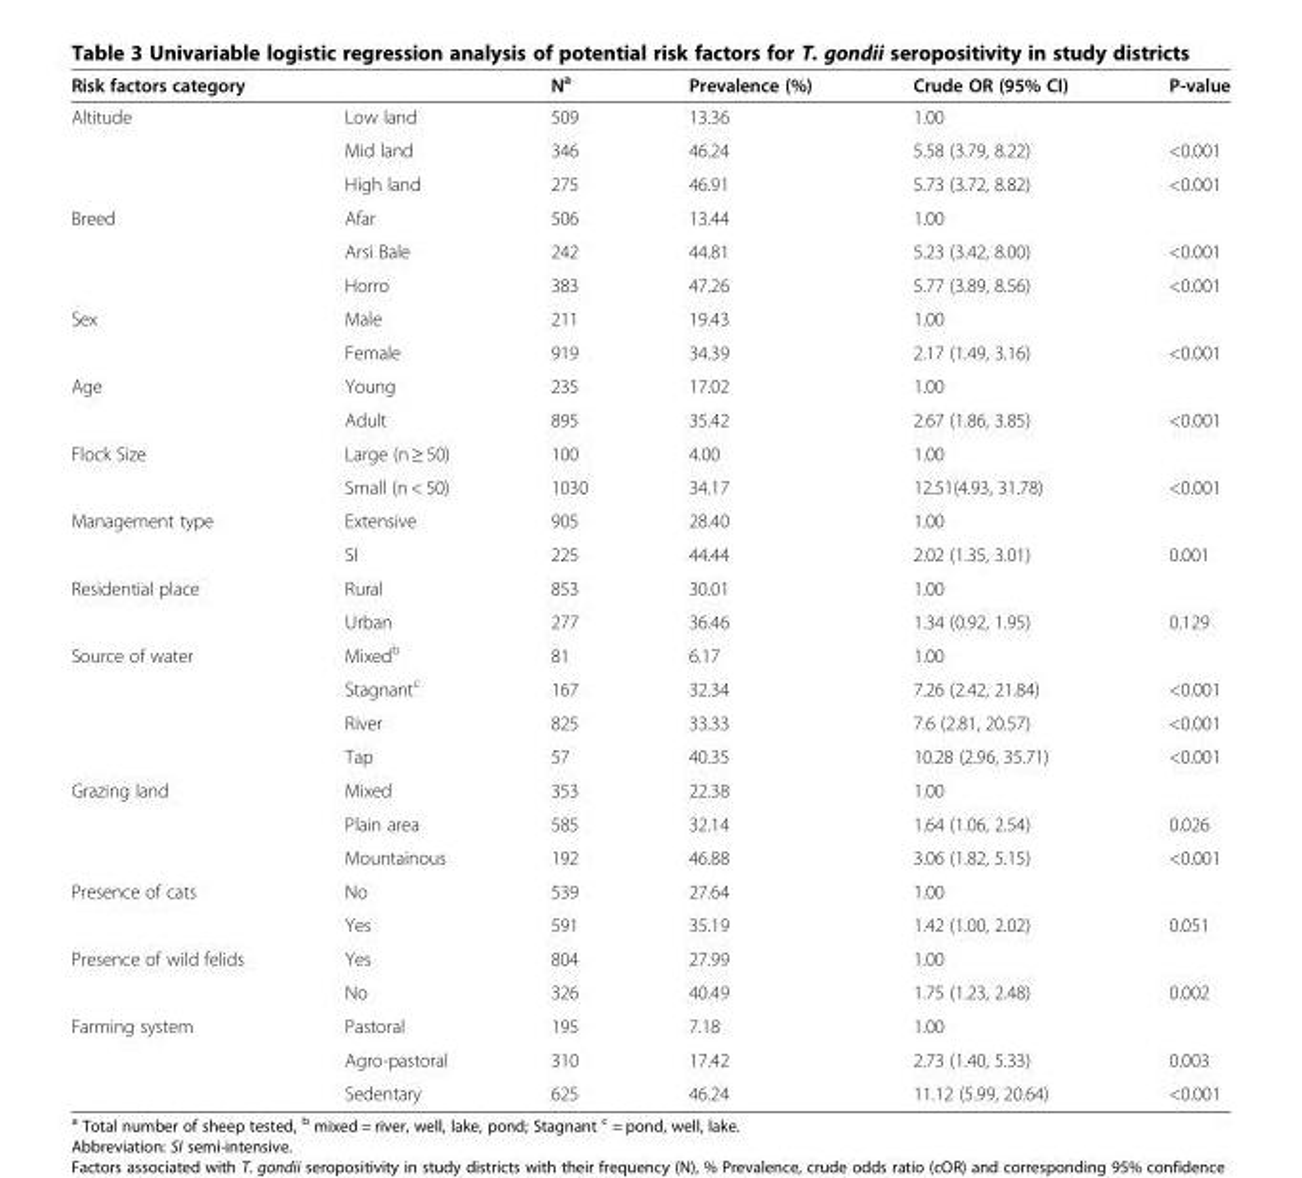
<table><thead><tr><td colspan="2">Risk factors category</td><td rowspan="2">N<sup>a</sup> 509</td><td rowspan="2">Prevalence (%) 13.36</td><td rowspan="2">Crude OR (95% CI) 1.00</td><td rowspan="2">P-value</td></tr><tr><td>Altitude</td><td>Low land</td></tr></thead><tbody><tr><td></td><td>Mid land</td><td>346</td><td>46.24</td><td>5.58 (3.79, 8.22)</td><td>&lt;0.001</td></tr><tr><td></td><td>High land</td><td>275</td><td>46.91</td><td>5.73 (3.72, 8.82)</td><td>&lt;0.001</td></tr><tr><td rowspan="3">Breed</td><td>Afar</td><td>506</td><td>13.44</td><td>1.00</td><td></td></tr><tr><td>Arsi Bale</td><td>242</td><td>44.81</td><td>5.23 (3.42, 8.00)</td><td>&lt;0.001</td></tr><tr><td>Horro</td><td>383</td><td>47.26</td><td>5.77 (3.89, 8.56)</td><td>&lt;0.001</td></tr><tr><td rowspan="2">Sex</td><td>Male</td><td>211</td><td>19.43</td><td>1.00</td><td></td></tr><tr><td>Female</td><td>919</td><td>34.39</td><td>2.17 (1.49, 3.16)</td><td>&lt;0.001</td></tr><tr><td rowspan="2">Age</td><td>Young</td><td>235</td><td>17.02</td><td>1.00</td><td></td></tr><tr><td>Adult</td><td>895</td><td>35.42</td><td>2.67 (1.86, 3.85)</td><td>&lt;0.001</td></tr><tr><td rowspan="2">Flock Size</td><td>Large (n ≥ 50)</td><td>100</td><td>4.00</td><td>1.00</td><td></td></tr><tr><td>Small (n &lt; 50)</td><td>1030</td><td>34.17</td><td>12.51(4.93, 31.78)</td><td>&lt;0.001</td></tr><tr><td rowspan="2">Management type</td><td>Extensive</td><td>905</td><td>28.40</td><td>1.00</td><td></td></tr><tr><td>SI</td><td>225</td><td>44.44</td><td>2.02 (1.35, 3.01)</td><td>0.001</td></tr><tr><td rowspan="2">Residential place</td><td>Rural</td><td>853</td><td>30.01</td><td>1.00</td><td></td></tr><tr><td>Urban</td><td>277</td><td>36.46</td><td>1.34 (0.92, 1.95)</td><td>0.129</td></tr><tr><td rowspan="4">Source of water</td><td>Mixed<sup>b</sup></td><td>81</td><td>6.17</td><td>1.00</td><td></td></tr><tr><td>Stagnant<sup>c</sup></td><td>167</td><td>32.34</td><td>7.26 (2.42, 21.84)</td><td>&lt;0.001</td></tr><tr><td>River</td><td>825</td><td>33.33</td><td>7.6 (2.81, 20.57)</td><td>&lt;0.001</td></tr><tr><td>Tap</td><td>57</td><td>40.35</td><td>10.28 (2.96, 35.71)</td><td>&lt;0.001</td></tr><tr><td rowspan="3">Grazing land</td><td>Mixed</td><td>353</td><td>22.38</td><td>1.00</td><td></td></tr><tr><td>Plain area</td><td>585</td><td>32.14</td><td>1.64 (1.06, 2.54)</td><td>0.026</td></tr><tr><td>Mountainous</td><td>192</td><td>46.88</td><td>3.06 (1.82, 5.15)</td><td>&lt;0.001</td></tr><tr><td rowspan="2">Presence of cats</td><td>No</td><td>539</td><td>27.64</td><td>1.00</td><td></td></tr><tr><td>Yes</td><td>591</td><td>35.19</td><td>1.42 (1.00, 2.02)</td><td>0.051</td></tr><tr><td rowspan="2">Presence of wild felids</td><td>Yes</td><td>804</td><td>27.99</td><td>1.00</td><td></td></tr><tr><td>No</td><td>326</td><td>40.49</td><td>1.75 (1.23, 2.48)</td><td>0.002</td></tr><tr><td rowspan="3">Farming system</td><td>Pastoral</td><td>195</td><td>7.18</td><td>1.00</td><td></td></tr><tr><td>Agro-pastoral</td><td>310</td><td>17.42</td><td>2.73 (1.40, 5.33)</td><td>0.003</td></tr><tr><td>Sedentary</td><td>625</td><td>46.24</td><td>11.12 (5.99, 20.64)</td><td>&lt;0.001</td></tr></tbody></table>